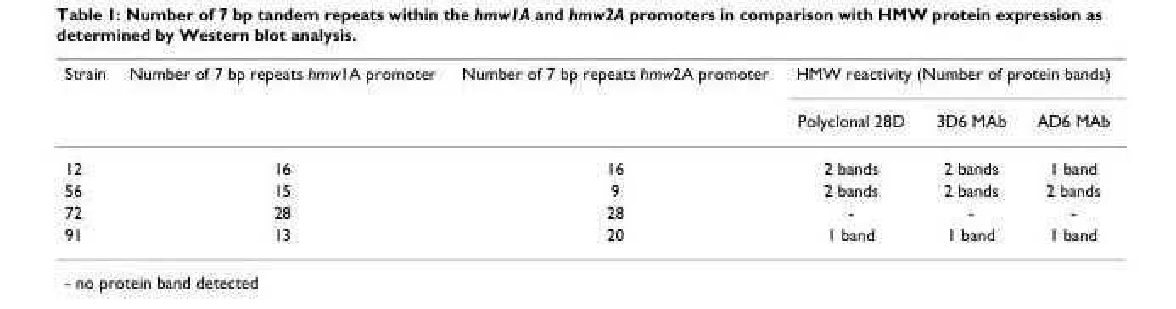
<table><thead><tr><td rowspan="2">Strain</td><td rowspan="2">Number of 7 bp repeats hmw1A promoter</td><td rowspan="2">Number of 7 bp repeats hmw2A promoter</td><td colspan="3">HMW reactivity (Number of protein bands)</td></tr><tr><td>Polyclonal 28D</td><td>3D6 MAb</td><td>AD6 MAb</td></tr></thead><tbody><tr><td>12</td><td>16</td><td>16</td><td>2 bands</td><td>2 bands</td><td>1 band</td></tr><tr><td>56</td><td>15</td><td>9</td><td>2 bands</td><td>2 bands</td><td>2 bands</td></tr><tr><td>72</td><td>28</td><td>28</td><td>-</td><td>-</td><td>-</td></tr><tr><td>91</td><td>13</td><td>20</td><td>1 band</td><td>1 band</td><td>1 band</td></tr></tbody></table>